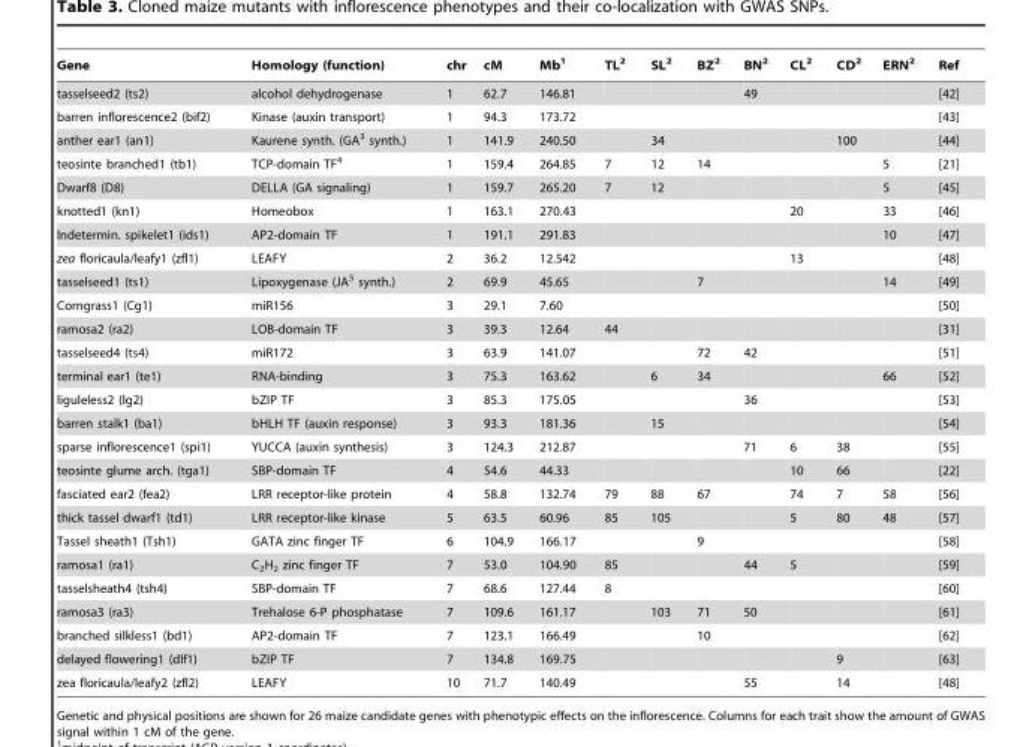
<table><thead><tr><td>Gene</td><td>Homology (function)</td><td>chr</td><td>cM</td><td>Mb<sup>1</sup></td><td>TL<sup>2</sup></td><td>SL<sup>2</sup></td><td>BZ<sup>2</sup></td><td>BN<sup>2</sup></td><td>CL<sup>2</sup></td><td>CD<sup>2</sup></td><td>ERN<sup>2</sup></td><td>Ref</td></tr></thead><tbody><tr><td>tasselseed2 (ts2)</td><td>alcohol dehydrogenase</td><td>1</td><td>62.7</td><td>146.81</td><td></td><td></td><td></td><td>49</td><td></td><td></td><td></td><td>[42]</td></tr><tr><td>barren inflorescence2 (bif2)</td><td>Kinase (auxin transport)</td><td>1</td><td>94.3</td><td>173.72</td><td></td><td></td><td></td><td></td><td></td><td></td><td></td><td>[43]</td></tr><tr><td>anther ear1 (an1)</td><td>Kaurene synth. (GA<sup>3</sup> synth.)</td><td>1</td><td>141.9</td><td>240.50</td><td></td><td>34</td><td></td><td></td><td></td><td>100</td><td></td><td>[44]</td></tr><tr><td>teosinte branched1 (tb1)</td><td>TCP-domain TF<sup>4</sup></td><td>1</td><td>159.4</td><td>264.85</td><td>7</td><td>12</td><td>14</td><td></td><td></td><td></td><td>5</td><td>[21]</td></tr><tr><td>Dwarf8 (D8)</td><td>DELLA (GA signaling)</td><td>1</td><td>159.7</td><td>265.20</td><td>7</td><td>12</td><td></td><td></td><td></td><td></td><td>5</td><td>[45]</td></tr><tr><td>knotted1 (kn1)</td><td>Homeobox</td><td>1</td><td>163.1</td><td>270.43</td><td></td><td></td><td></td><td></td><td>20</td><td></td><td>33</td><td>[46]</td></tr><tr><td>Indetermin. spikelet1 (ids1)</td><td>AP2-domain TF</td><td>1</td><td>191.1</td><td>291.83</td><td></td><td></td><td></td><td></td><td></td><td></td><td>10</td><td>[47]</td></tr><tr><td>zea floricaula/leafy1 (zfl1)</td><td>LEAFY</td><td>2</td><td>36.2</td><td>12.542</td><td></td><td></td><td></td><td></td><td>13</td><td></td><td></td><td>[48]</td></tr><tr><td>tasselseed1 (ts1)</td><td>Lipoxygenase (JA<sup>5</sup> synth.)</td><td>2</td><td>69.9</td><td>45.65</td><td></td><td></td><td>7</td><td></td><td></td><td></td><td>14</td><td>[49]</td></tr><tr><td>Corngrass1 (Cg1)</td><td>miR156</td><td>3</td><td>29.1</td><td>7.60</td><td></td><td></td><td></td><td></td><td></td><td></td><td></td><td>[50]</td></tr><tr><td>ramosa2 (ra2)</td><td>LOB-domain TF</td><td>3</td><td>39.3</td><td>12.64</td><td>44</td><td></td><td></td><td></td><td></td><td></td><td></td><td>[31]</td></tr><tr><td>tasselseed4 (ts4)</td><td>miR172</td><td>3</td><td>63.9</td><td>141.07</td><td></td><td></td><td>72</td><td>42</td><td></td><td></td><td></td><td>[51]</td></tr><tr><td>terminal ear1 (te1)</td><td>RNA-binding</td><td>3</td><td>75.3</td><td>163.62</td><td></td><td>6</td><td>34</td><td></td><td></td><td></td><td>66</td><td>[52]</td></tr><tr><td>liguleless2 (lg2)</td><td>bZIP TF</td><td>3</td><td>85.3</td><td>175.05</td><td></td><td></td><td></td><td>36</td><td></td><td></td><td></td><td>[53]</td></tr><tr><td>barren stalk1 (ba1)</td><td>bHLH TF (auxin response)</td><td>3</td><td>93.3</td><td>181.36</td><td></td><td>15</td><td></td><td></td><td></td><td></td><td></td><td>[54]</td></tr><tr><td>sparse inflorescence1 (spi1)</td><td>YUCCA (auxin synthesis)</td><td>3</td><td>124.3</td><td>212.87</td><td></td><td></td><td></td><td>71</td><td>6</td><td>38</td><td></td><td>[55]</td></tr><tr><td>teosinte glume arch. (tga1)</td><td>SBP-domain TF</td><td>4</td><td>54.6</td><td>44.33</td><td></td><td></td><td></td><td></td><td>10</td><td>66</td><td></td><td>[22]</td></tr><tr><td>fasciated ear2 (fea2)</td><td>LRR receptor-like protein</td><td>4</td><td>58.8</td><td>132.74</td><td>79</td><td>88</td><td>67</td><td></td><td>74</td><td>7</td><td>58</td><td>[56]</td></tr><tr><td>thick tassel dwarf1 (td1)</td><td>LRR receptor-like kinase</td><td>5</td><td>63.5</td><td>60.96</td><td>85</td><td>105</td><td></td><td></td><td>5</td><td>80</td><td>48</td><td>[57]</td></tr><tr><td>Tassel sheath1 (Tsh1)</td><td>GATA zinc finger TF</td><td>6</td><td>104.9</td><td>166.17</td><td></td><td></td><td>9</td><td></td><td></td><td></td><td></td><td>[58]</td></tr><tr><td>ramosa1 (ra1)</td><td>C<sub>2</sub>H<sub>2</sub> zinc finger TF</td><td>7</td><td>53.0</td><td>104.90</td><td>85</td><td></td><td></td><td>44</td><td>5</td><td></td><td></td><td>[59]</td></tr><tr><td>tasselsheath4 (tsh4)</td><td>SBP-domain TF</td><td>7</td><td>68.6</td><td>127.44</td><td>8</td><td></td><td></td><td></td><td></td><td></td><td></td><td>[60]</td></tr><tr><td>ramosa3 (ra3)</td><td>Trehalose 6-P phosphatase</td><td>7</td><td>109.6</td><td>161.17</td><td></td><td>103</td><td>71</td><td>50</td><td></td><td></td><td></td><td>[61]</td></tr><tr><td>branched silkless1 (bd1)</td><td>AP2-domain TF</td><td>7</td><td>123.1</td><td>166.49</td><td></td><td></td><td>10</td><td></td><td></td><td></td><td></td><td>[62]</td></tr><tr><td>delayed flowering1 (dlf1)</td><td>bZIP TF</td><td>7</td><td>134.8</td><td>169.75</td><td></td><td></td><td></td><td></td><td></td><td>9</td><td></td><td>[63]</td></tr><tr><td>zea floricaula/leafy2 (zfl2)</td><td>LEAFY</td><td>10</td><td>71.7</td><td>140.49</td><td></td><td></td><td></td><td>55</td><td></td><td>14</td><td></td><td>[48]</td></tr></tbody></table>